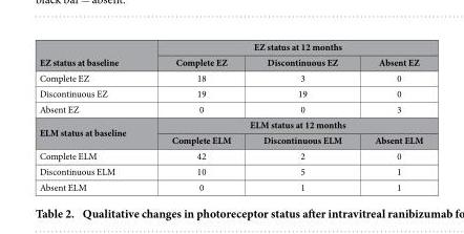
<table><thead><tr><td rowspan="2">EZ status at baseline</td><td colspan="3">EZ status at 12 months</td></tr><tr><td>Complete EZ</td><td>Discontinuous EZ</td><td>Absent EZ</td></tr></thead><tbody><tr><td>Complete EZ</td><td>18</td><td>3</td><td>0</td></tr><tr><td>Discontinuous EZ</td><td>19</td><td>19</td><td>0</td></tr><tr><td>Absent EZ</td><td>0</td><td>0</td><td>3</td></tr><tr><td rowspan="2">ELM status at baseline</td><td colspan="3">ELM status at 12 months</td></tr><tr><td>Complete ELM</td><td>Discontinuous ELM</td><td>Absent ELM</td></tr><tr><td>Complete ELM</td><td>42</td><td>2</td><td>0</td></tr><tr><td>Discontinuous ELM</td><td>10</td><td>5</td><td>1</td></tr><tr><td>Absent ELM</td><td>0</td><td>1</td><td>1</td></tr></tbody></table>